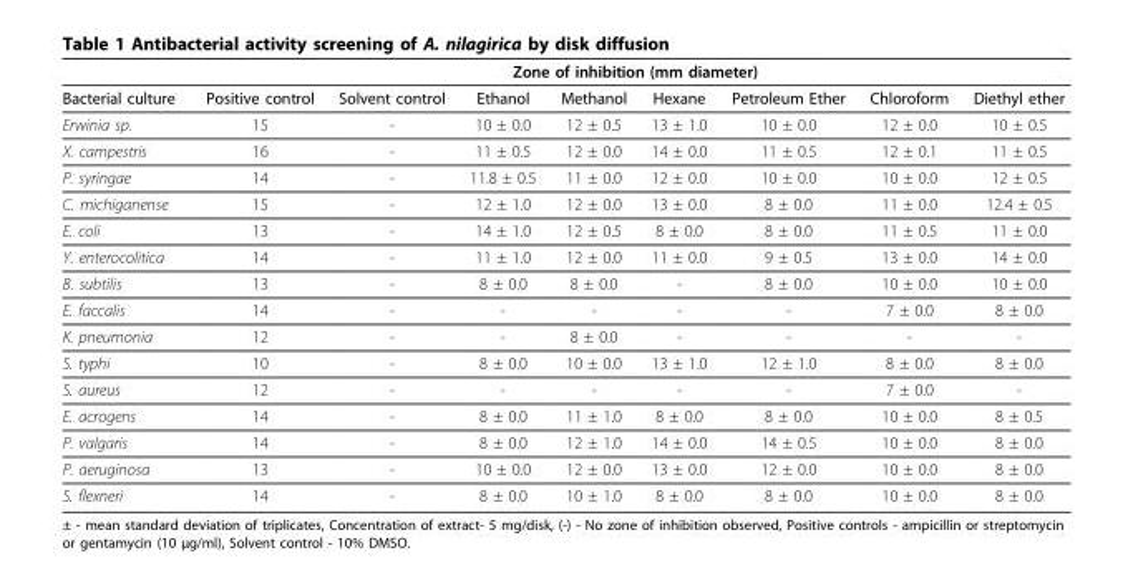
<table><thead><tr><td rowspan="2">Bacterial culture</td><td colspan="8">Zone of inhibition (mm diameter)</td></tr><tr><td>Positive control</td><td>Solvent control</td><td>Ethanol</td><td>Methanol</td><td>Hexane</td><td>Petroleum Ether</td><td>Chloroform</td><td>Diethyl ether</td></tr></thead><tbody><tr><td>Erwinia sp.</td><td>15</td><td>-</td><td>10 ± 0.0</td><td>12 ± 0.5</td><td>13 ± 1.0</td><td>10 ± 0.0</td><td>12 ± 0.0</td><td>10 ± 0.5</td></tr><tr><td>X. campestris</td><td>16</td><td>-</td><td>11 ± 0.5</td><td>12 ± 0.0</td><td>14 ± 0.0</td><td>11 ± 0.5</td><td>12 ± 0.1</td><td>11 ± 0.5</td></tr><tr><td>P. syringae</td><td>14</td><td>-</td><td>11.8 ± 0.5</td><td>11 ± 0.0</td><td>12 ± 0.0</td><td>10 ± 0.0</td><td>10 ± 0.0</td><td>12 ± 0.5</td></tr><tr><td>C. michiganense</td><td>15</td><td>-</td><td>12 ± 1.0</td><td>12 ± 0.0</td><td>13 ± 0.0</td><td>8 ± 0.0</td><td>11 ± 0.0</td><td>12.4 ± 0.5</td></tr><tr><td>E. coli</td><td>13</td><td>-</td><td>14 ± 1.0</td><td>12 ± 0.5</td><td>8 ± 0.0</td><td>8 ± 0.0</td><td>11 ± 0.5</td><td>11 ± 0.0</td></tr><tr><td>Y. enterocolitica</td><td>14</td><td>-</td><td>11 ± 1.0</td><td>12 ± 0.0</td><td>11 ± 0.0</td><td>9 ± 0.5</td><td>13 ± 0.0</td><td>14 ± 0.0</td></tr><tr><td>B. subtilis</td><td>13</td><td>-</td><td>8 ± 0.0</td><td>8 ± 0.0</td><td>-</td><td>8 ± 0.0</td><td>10 ± 0.0</td><td>10 ± 0.0</td></tr><tr><td>E. faccalis</td><td>14</td><td>-</td><td>-</td><td>-</td><td>-</td><td>-</td><td>7 ± 0.0</td><td>8 ± 0.0</td></tr><tr><td>K. pneumonia</td><td>12</td><td>-</td><td>-</td><td>8 ± 0.0</td><td>-</td><td>-</td><td>-</td><td>-</td></tr><tr><td>S. typhi</td><td>10</td><td>-</td><td>8 ± 0.0</td><td>10 ± 0.0</td><td>13 ± 1.0</td><td>12 ± 1.0</td><td>8 ± 0.0</td><td>8 ± 0.0</td></tr><tr><td>S. aureus</td><td>12</td><td>-</td><td>-</td><td>-</td><td>-</td><td>-</td><td>7 ± 0.0</td><td>-</td></tr><tr><td>E. acrogens</td><td>14</td><td>-</td><td>8 ± 0.0</td><td>11 ± 1.0</td><td>8 ± 0.0</td><td>8 ± 0.0</td><td>10 ± 0.0</td><td>8 ± 0.5</td></tr><tr><td>P. valgaris</td><td>14</td><td>-</td><td>8 ± 0.0</td><td>12 ± 1.0</td><td>14 ± 0.0</td><td>14 ± 0.5</td><td>10 ± 0.0</td><td>8 ± 0.0</td></tr><tr><td>P. aeruginosa</td><td>13</td><td>-</td><td>10 ± 0.0</td><td>12 ± 0.0</td><td>13 ± 0.0</td><td>12 ± 0.0</td><td>10 ± 0.0</td><td>8 ± 0.0</td></tr><tr><td>S. flexneri</td><td>14</td><td>-</td><td>8 ± 0.0</td><td>10 ± 1.0</td><td>8 ± 0.0</td><td>8 ± 0.0</td><td>10 ± 0.0</td><td>8 ± 0.0</td></tr></tbody></table>